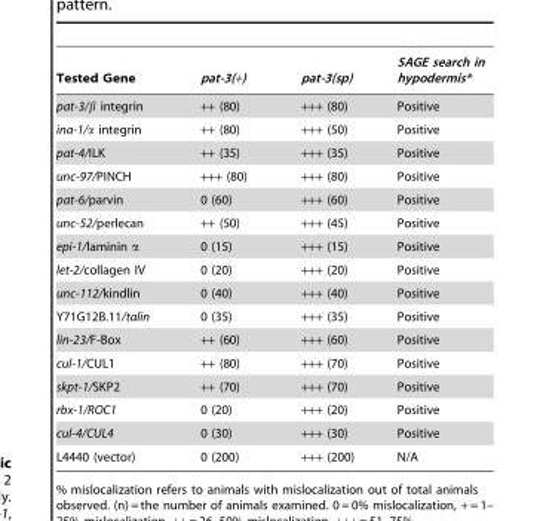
<table><thead><tr><td>Tested Gene</td><td>pat-3(+)</td><td>pat-3(sp)</td><td>SAGE search in hypodermis*</td></tr></thead><tbody><tr><td>pat-3/β integrin</td><td>++ (80)</td><td>+++ (80)</td><td>Positive</td></tr><tr><td>ina-1/α integrin</td><td>++ (80)</td><td>+++ (50)</td><td>Positive</td></tr><tr><td>pat-4/ILK</td><td>++ (35)</td><td>+++ (35)</td><td>Positive</td></tr><tr><td>unc-97/PINCH</td><td>+++ (80)</td><td>+++ (80)</td><td>Positive</td></tr><tr><td>pat-6/parvin</td><td>0 (60)</td><td>+++ (60)</td><td>Positive</td></tr><tr><td>unc-52/perlecan</td><td>++ (50)</td><td>+++ (45)</td><td>Positive</td></tr><tr><td>epi-1/laminin α</td><td>0 (15)</td><td>+++ (15)</td><td>Positive</td></tr><tr><td>let-2/collagen IV</td><td>0 (20)</td><td>+++ (20)</td><td>Positive</td></tr><tr><td>unc-112/kindlin</td><td>0 (40)</td><td>+++ (40)</td><td>Positive</td></tr><tr><td>Y71G12B.11/talin</td><td>0 (35)</td><td>+++ (35)</td><td>Positive</td></tr><tr><td>lin-23/F-Box</td><td>++ (60)</td><td>+++ (60)</td><td>Positive</td></tr><tr><td>cul-1/CUL1</td><td>++ (80)</td><td>+++ (70)</td><td>Positive</td></tr><tr><td>skpt-1/SKP2</td><td>++ (70)</td><td>+++ (70)</td><td>Positive</td></tr><tr><td>rbx-1/ROC1</td><td>0 (20)</td><td>+++ (20)</td><td>Positive</td></tr><tr><td>cul-4/CUL4</td><td>0 (30)</td><td>+++ (30)</td><td>Positive</td></tr><tr><td>L4440 (vector)</td><td>0 (200)</td><td>+++ (200)</td><td>N/A</td></tr></tbody></table>